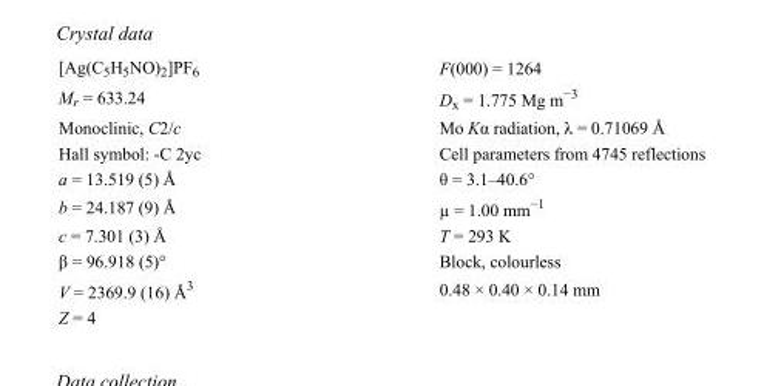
<table><tbody><tr><td>[Ag(C<sub>5</sub>H<sub>5</sub>NO)<sub>2</sub>]PF<sub>6</sub></td><td>F(000) = 1264</td></tr><tr><td>M<sub>r</sub> = 633.24</td><td>D<sub>x</sub> = 1.775 Mg m<sup>−3</sup></td></tr><tr><td>Monoclinic, C2/c</td><td>Mo Kα radiation, λ = 0.71069 Å</td></tr><tr><td>Hall symbol: -C 2yc</td><td>Cell parameters from 4745 reflections</td></tr><tr><td>a = 13.519 (5) Å</td><td>θ = 3.1–40.6°</td></tr><tr><td>b = 24.187 (9) Å</td><td>µ = 1.00 mm<sup>−1</sup></td></tr><tr><td>c = 7.301 (3) Å</td><td>T = 293 K</td></tr><tr><td>β = 96.918 (5)°</td><td>Block, colourless</td></tr><tr><td>V = 2369.9 (16) Å<sup>3</sup></td><td>0.48 × 0.40 × 0.14 mm</td></tr><tr><td>Z = 4</td><td></td></tr></tbody></table>